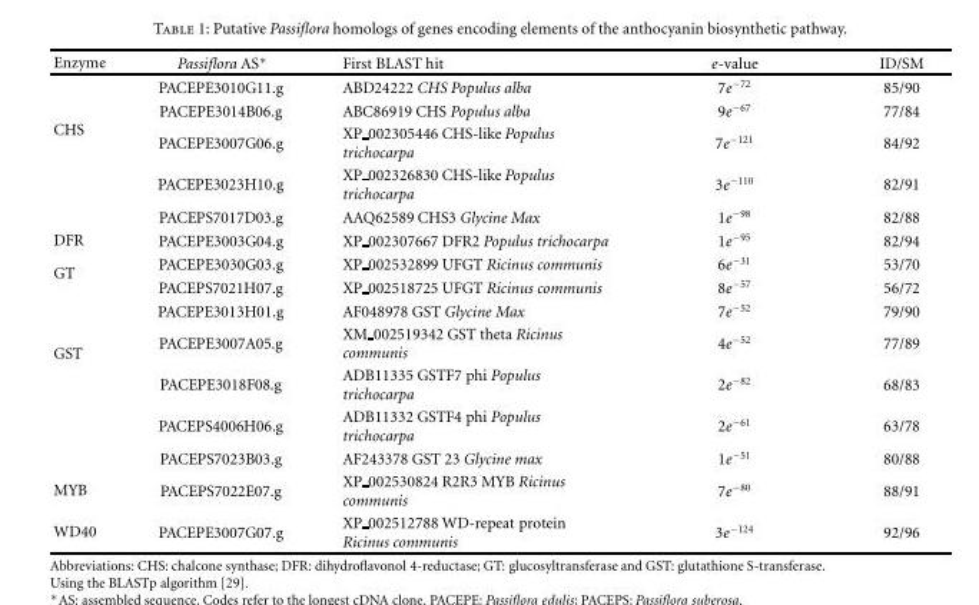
<table><thead><tr><td>Enzyme</td><td>Passiflora AS∗</td><td>First BLAST hit</td><td>e-value</td><td>ID/SM</td></tr></thead><tbody><tr><td rowspan="5">CHS</td><td>PACEPE3010G11.g</td><td>ABD24222 CHS Populus alba</td><td>7e<sup>−72</sup></td><td>85/90</td></tr><tr><td>PACEPE3014B06.g</td><td>ABC86919 CHS Populus alba</td><td>9e<sup>−67</sup></td><td>77/84</td></tr><tr><td>PACEPE3007G06.g</td><td>XP 002305446 CHS-like Populus trichocarpa</td><td>7e<sup>−121</sup></td><td>84/92</td></tr><tr><td>PACEPE3023H10.g</td><td>XP 002326830 CHS-like Populus trichocarpa</td><td>3e<sup>−110</sup></td><td>82/91</td></tr><tr><td>PACEPS7017D03.g</td><td>AAQ62589 CHS3 Glycine Max</td><td>1e<sup>−98</sup></td><td>82/88</td></tr><tr><td>DFR</td><td>PACEPE3003G04.g</td><td>XP 002307667 DFR2 Populus trichocarpa</td><td>1e<sup>−95</sup></td><td>82/94</td></tr><tr><td rowspan="2">GT</td><td>PACEPE3030G03.g</td><td>XP 002532899 UFGT Ricinus communis</td><td>6e<sup>−31</sup></td><td>53/70</td></tr><tr><td>PACEPS7021H07.g</td><td>XP 002518725 UFGT Ricinus communis</td><td>8e<sup>−57</sup></td><td>56/72</td></tr><tr><td rowspan="5">GST</td><td>PACEPE3013H01.g</td><td>AF048978 GST Glycine Max</td><td>7e<sup>−52</sup></td><td>79/90</td></tr><tr><td>PACEPE3007A05.g</td><td>XM 002519342 GST theta Ricinus communis</td><td>4e<sup>−52</sup></td><td>77/89</td></tr><tr><td>PACEPE3018F08.g</td><td>ADB11335 GSTF7 phi Populus trichocarpa</td><td>2e<sup>−82</sup></td><td>68/83</td></tr><tr><td>PACEPS4006H06.g</td><td>ADB11332 GSTF4 phi Populus trichocarpa</td><td>2e<sup>−61</sup></td><td>63/78</td></tr><tr><td>PACEPS7023B03.g</td><td>AF243378 GST 23 Glycine max</td><td>1e<sup>−51</sup></td><td>80/88</td></tr><tr><td>MYB</td><td>PACEPS7022E07.g</td><td>XP 002530824 R2R3 MYB Ricinus communis</td><td>7e<sup>−80</sup></td><td>88/91</td></tr><tr><td>WD40</td><td>PACEPE3007G07.g</td><td>XP 002512788 WD-repeat protein Ricinus communis</td><td>3e<sup>−124</sup></td><td>92/96</td></tr></tbody></table>